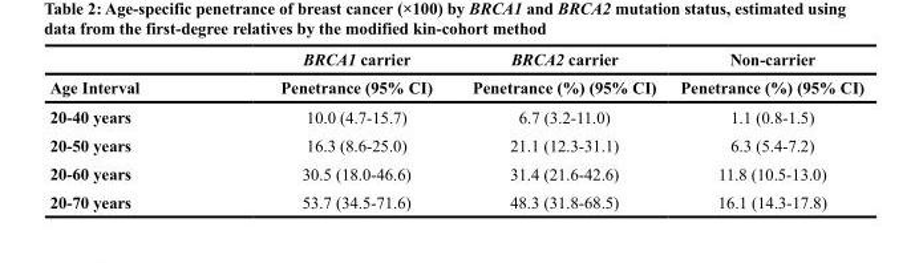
<table><thead><tr><td rowspan="2">Age Interval</td><td rowspan="2">BRCA1 carrier Penetrance (95% CI)</td><td rowspan="2">BRCA2 carrier Penetrance (%) (95% CI)</td><td rowspan="2">Non-carrier Penetrance (%) (95% CI)</td></tr><tr></tr></thead><tbody><tr><td>20-40 years</td><td>10.0 (4.7-15.7)</td><td>6.7 (3.2-11.0)</td><td>1.1 (0.8-1.5)</td></tr><tr><td>20-50 years</td><td>16.3 (8.6-25.0)</td><td>21.1 (12.3-31.1)</td><td>6.3 (5.4-7.2)</td></tr><tr><td>20-60 years</td><td>30.5 (18.0-46.6)</td><td>31.4 (21.6-42.6)</td><td>11.8 (10.5-13.0)</td></tr><tr><td>20-70 years</td><td>53.7 (34.5-71.6)</td><td>48.3 (31.8-68.5)</td><td>16.1 (14.3-17.8)</td></tr></tbody></table>